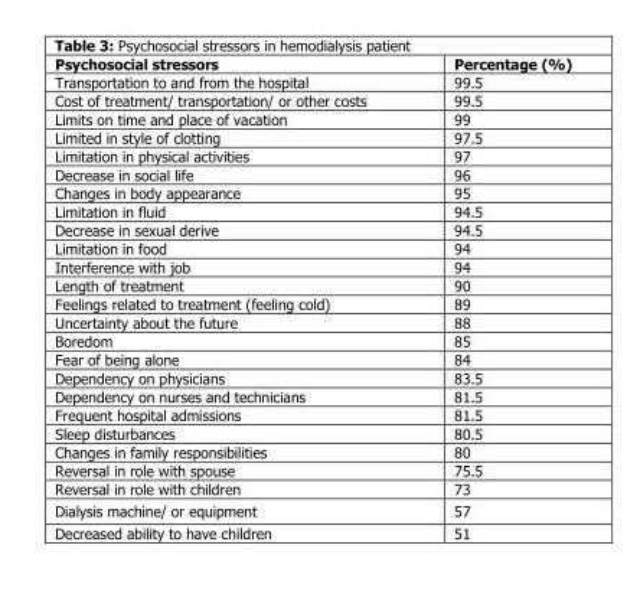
<table><thead><tr><td>Psychosocial stressors</td><td>Percentage (%)</td></tr></thead><tbody><tr><td>Transportation to and from the hospital</td><td>99.5</td></tr><tr><td>Cost of treatment/ transportation/ or other costs</td><td>99.5</td></tr><tr><td>Limits on time and place of vacation</td><td>99</td></tr><tr><td>Limited in style of clotting</td><td>97.5</td></tr><tr><td>Limitation in physical activities</td><td>97</td></tr><tr><td>Decrease in social life</td><td>96</td></tr><tr><td>Changes in body appearance</td><td>95</td></tr><tr><td>Limitation in fluid</td><td>94.5</td></tr><tr><td>Decrease in sexual derive</td><td>94.5</td></tr><tr><td>Limitation in food</td><td>94</td></tr><tr><td>Interference with job</td><td>94</td></tr><tr><td>Length of treatment</td><td>90</td></tr><tr><td>Feelings related to treatment (feeling cold)</td><td>89</td></tr><tr><td>Uncertainty about the future</td><td>88</td></tr><tr><td>Boredom</td><td>85</td></tr><tr><td>Fear of being alone</td><td>84</td></tr><tr><td>Dependency on physicians</td><td>83.5</td></tr><tr><td>Dependency on nurses and technicians</td><td>81.5</td></tr><tr><td>Frequent hospital admissions</td><td>81.5</td></tr><tr><td>Sleep disturbances</td><td>80.5</td></tr><tr><td>Changes in family responsibilities</td><td>80</td></tr><tr><td>Reversal in role with spouse</td><td>75.5</td></tr><tr><td>Reversal in role with children</td><td>73</td></tr><tr><td>Dialysis machine/ or equipment</td><td>57</td></tr><tr><td>Decreased ability to have children</td><td>51</td></tr></tbody></table>